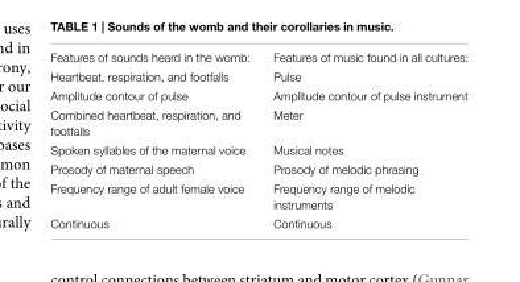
<table><tbody><tr><td>Features of sounds heard in the womb:</td><td>Features of music found in all cultures:</td></tr><tr><td>Heartbeat, respiration, and footfalls</td><td>Pulse</td></tr><tr><td>Amplitude contour of pulse</td><td>Amplitude contour of pulse instrument</td></tr><tr><td>Combined heartbeat, respiration, and footfalls</td><td>Meter</td></tr><tr><td>Spoken syllables of the maternal voice</td><td>Musical notes</td></tr><tr><td>Prosody of maternal speech</td><td>Prosody of melodic phrasing</td></tr><tr><td>Frequency range of adult female voice</td><td>Frequency range of melodic instruments</td></tr><tr><td>Continuous</td><td>Continuous</td></tr></tbody></table>